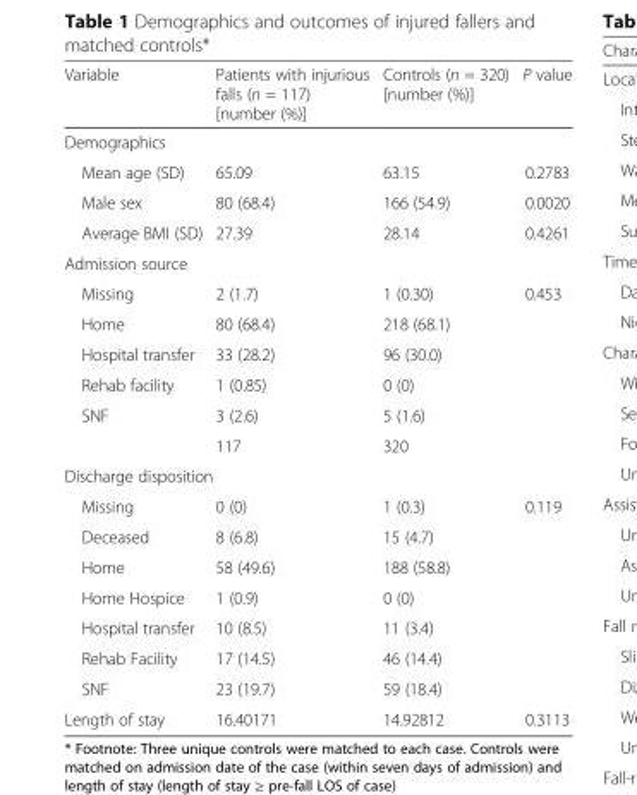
<table><thead><tr><td>Variable</td><td>Patients with injurious falls (n = 117) [number (%)]</td><td>Controls (n = 320) [number (%)]</td><td>P value</td></tr></thead><tbody><tr><td colspan="4">Demographics</td></tr><tr><td>Mean age (SD)</td><td>65.09</td><td>63.15</td><td>0.2783</td></tr><tr><td>Male sex</td><td>80 (68.4)</td><td>166 (54.9)</td><td>0.0020</td></tr><tr><td>Average BMI (SD)</td><td>27.39</td><td>28.14</td><td>0.4261</td></tr><tr><td colspan="4">Admission source</td></tr><tr><td>Missing</td><td>2 (1.7)</td><td>1 (0.30)</td><td rowspan="6">0.453</td></tr><tr><td>Home</td><td>80 (68.4)</td><td>218 (68.1)</td></tr><tr><td>Hospital transfer</td><td>33 (28.2)</td><td>96 (30.0)</td></tr><tr><td>Rehab facility</td><td>1 (0.85)</td><td>0 (0)</td></tr><tr><td rowspan="2">SNF</td><td>3 (2.6)</td><td>5 (1.6)</td></tr><tr><td>117</td><td>320</td></tr><tr><td colspan="4">Discharge disposition</td></tr><tr><td>Missing</td><td>0 (0)</td><td>1 (0.3)</td><td rowspan="7">0.119</td></tr><tr><td>Deceased</td><td>8 (6.8)</td><td>15 (4.7)</td></tr><tr><td>Home</td><td>58 (49.6)</td><td>188 (58.8)</td></tr><tr><td>Home Hospice</td><td>1 (0.9)</td><td>0 (0)</td></tr><tr><td>Hospital transfer</td><td>10 (8.5)</td><td>11 (3.4)</td></tr><tr><td>Rehab Facility</td><td>17 (14.5)</td><td>46 (14.4)</td></tr><tr><td>SNF</td><td>23 (19.7)</td><td>59 (18.4)</td></tr><tr><td>Length of stay</td><td>16.40171</td><td>14.92812</td><td>0.3113</td></tr></tbody></table>